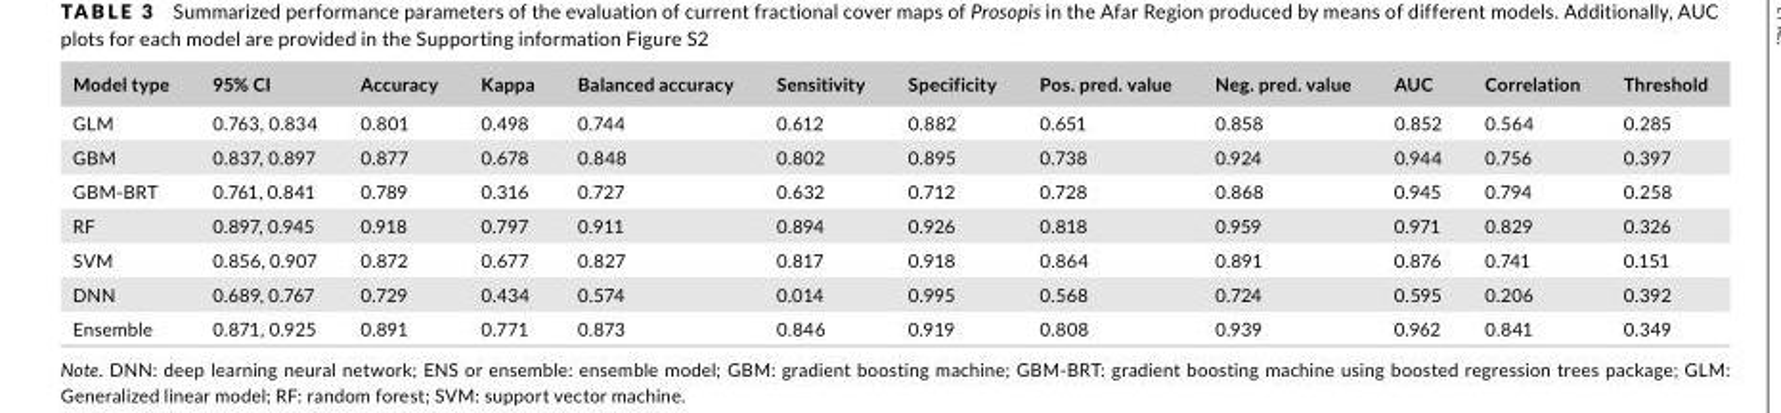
<table><thead><tr><td>Model type</td><td>95% CI</td><td>Accuracy</td><td>Kappa</td><td>Balanced accuracy</td><td>Sensitivity</td><td>Specificity</td><td>Pos. pred. value</td><td>Neg. pred. value</td><td>AUC</td><td>Correlation</td><td>Threshold</td></tr></thead><tbody><tr><td>GLM</td><td>0.763, 0.834</td><td>0.801</td><td>0.498</td><td>0.744</td><td>0.612</td><td>0.882</td><td>0.651</td><td>0.858</td><td>0.852</td><td>0.564</td><td>0.285</td></tr><tr><td>GBM</td><td>0.837, 0.897</td><td>0.877</td><td>0.678</td><td>0.848</td><td>0.802</td><td>0.895</td><td>0.738</td><td>0.924</td><td>0.944</td><td>0.756</td><td>0.397</td></tr><tr><td>GBM‐BRT</td><td>0.761, 0.841</td><td>0.789</td><td>0.316</td><td>0.727</td><td>0.632</td><td>0.712</td><td>0.728</td><td>0.868</td><td>0.945</td><td>0.794</td><td>0.258</td></tr><tr><td>RF</td><td>0.897, 0.945</td><td>0.918</td><td>0.797</td><td>0.911</td><td>0.894</td><td>0.926</td><td>0.818</td><td>0.959</td><td>0.971</td><td>0.829</td><td>0.326</td></tr><tr><td>SVM</td><td>0.856, 0.907</td><td>0.872</td><td>0.677</td><td>0.827</td><td>0.817</td><td>0.918</td><td>0.864</td><td>0.891</td><td>0.876</td><td>0.741</td><td>0.151</td></tr><tr><td>DNN</td><td>0.689, 0.767</td><td>0.729</td><td>0.434</td><td>0.574</td><td>0.014</td><td>0.995</td><td>0.568</td><td>0.724</td><td>0.595</td><td>0.206</td><td>0.392</td></tr><tr><td>Ensemble</td><td>0.871, 0.925</td><td>0.891</td><td>0.771</td><td>0.873</td><td>0.846</td><td>0.919</td><td>0.808</td><td>0.939</td><td>0.962</td><td>0.841</td><td>0.349</td></tr></tbody></table>